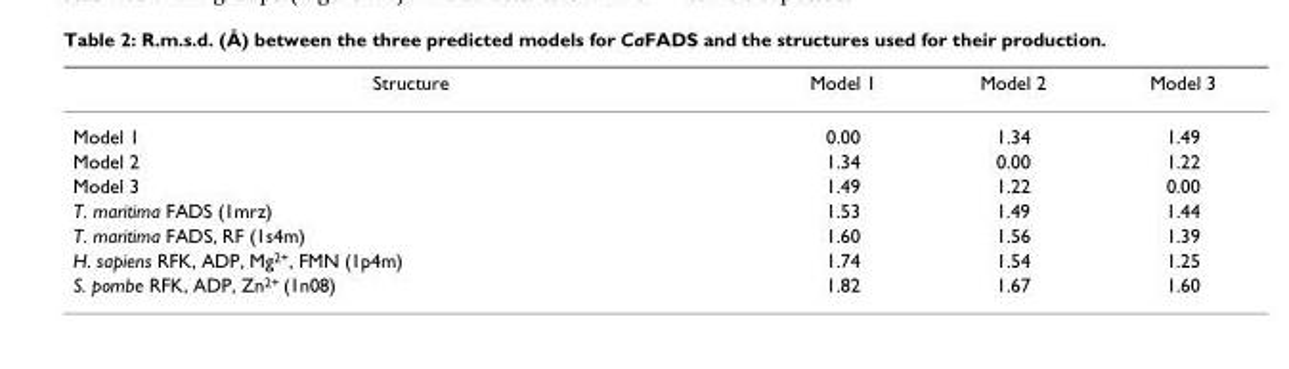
<table><thead><tr><td>Structure</td><td>Model 1</td><td>Model 2</td><td>Model 3</td></tr></thead><tbody><tr><td>Model 1</td><td>0.00</td><td>1.34</td><td>1.49</td></tr><tr><td>Model 2</td><td>1.34</td><td>0.00</td><td>1.22</td></tr><tr><td>Model 3</td><td>1.49</td><td>1.22</td><td>0.00</td></tr><tr><td>T. maritima FADS (1mrz)</td><td>1.53</td><td>1.49</td><td>1.44</td></tr><tr><td>T. maritima FADS, RF (1s4m)</td><td>1.60</td><td>1.56</td><td>1.39</td></tr><tr><td>H. sapiens RFK, ADP, Mg<sup>2+</sup>, FMN (1p4m)</td><td>1.74</td><td>1.54</td><td>1.25</td></tr><tr><td>S. pombe RFK, ADP, Zn<sup>2+</sup> (1n08)</td><td>1.82</td><td>1.67</td><td>1.60</td></tr></tbody></table>